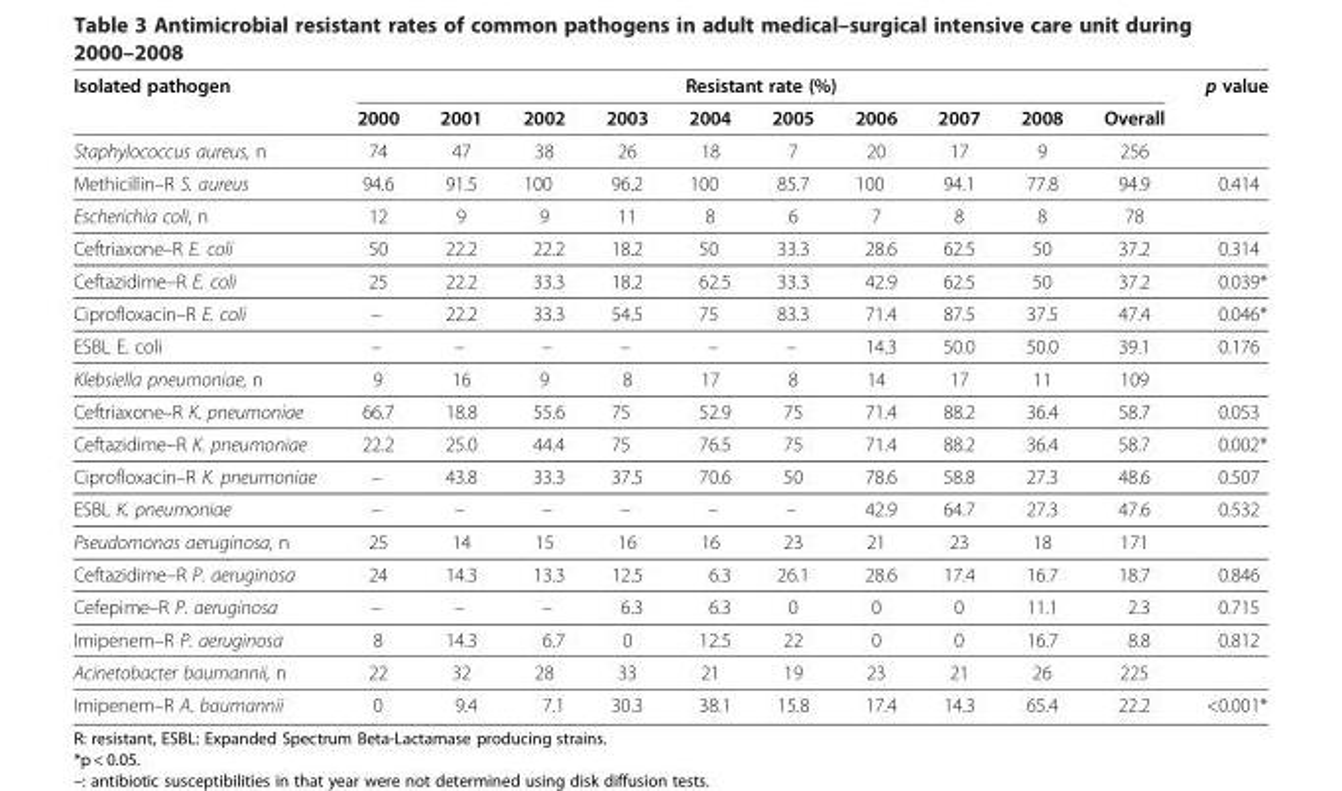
<table><thead><tr><td rowspan="2">Isolated pathogen</td><td colspan="10">Resistant rate (%)</td><td rowspan="2">p value</td></tr><tr><td>2000</td><td>2001</td><td>2002</td><td>2003</td><td>2004</td><td>2005</td><td>2006</td><td>2007</td><td>2008</td><td>Overall</td></tr></thead><tbody><tr><td>Staphylococcus aureus, n</td><td>74</td><td>47</td><td>38</td><td>26</td><td>18</td><td>7</td><td>20</td><td>17</td><td>9</td><td>256</td><td></td></tr><tr><td>Methicillin–R S. aureus</td><td>94.6</td><td>91.5</td><td>100</td><td>96.2</td><td>100</td><td>85.7</td><td>100</td><td>94.1</td><td>77.8</td><td>94.9</td><td>0.414</td></tr><tr><td>Escherichia coli, n</td><td>12</td><td>9</td><td>9</td><td>11</td><td>8</td><td>6</td><td>7</td><td>8</td><td>8</td><td>78</td><td></td></tr><tr><td>Ceftriaxone–R E. coli</td><td>50</td><td>22.2</td><td>22.2</td><td>18.2</td><td>50</td><td>33.3</td><td>28.6</td><td>62.5</td><td>50</td><td>37.2</td><td>0.314</td></tr><tr><td>Ceftazidime–R E. coli</td><td>25</td><td>22.2</td><td>33.3</td><td>18.2</td><td>62.5</td><td>33.3</td><td>42.9</td><td>62.5</td><td>50</td><td>37.2</td><td>0.039*</td></tr><tr><td>Ciprofloxacin–R E. coli</td><td>–</td><td>22.2</td><td>33.3</td><td>54.5</td><td>75</td><td>83.3</td><td>71.4</td><td>87.5</td><td>37.5</td><td>47.4</td><td>0.046*</td></tr><tr><td>ESBL E. coli</td><td>–</td><td>–</td><td>–</td><td>–</td><td>–</td><td>–</td><td>14.3</td><td>50.0</td><td>50.0</td><td>39.1</td><td>0.176</td></tr><tr><td>Klebsiella pneumoniae, n</td><td>9</td><td>16</td><td>9</td><td>8</td><td>17</td><td>8</td><td>14</td><td>17</td><td>11</td><td>109</td><td></td></tr><tr><td>Ceftriaxone–R K. pneumoniae</td><td>66.7</td><td>18.8</td><td>55.6</td><td>75</td><td>52.9</td><td>75</td><td>71.4</td><td>88.2</td><td>36.4</td><td>58.7</td><td>0.053</td></tr><tr><td>Ceftazidime–R K. pneumoniae</td><td>22.2</td><td>25.0</td><td>44.4</td><td>75</td><td>76.5</td><td>75</td><td>71.4</td><td>88.2</td><td>36.4</td><td>58.7</td><td>0.002*</td></tr><tr><td>Ciprofloxacin–R K. pneumoniae</td><td>–</td><td>43.8</td><td>33.3</td><td>37.5</td><td>70.6</td><td>50</td><td>78.6</td><td>58.8</td><td>27.3</td><td>48.6</td><td>0.507</td></tr><tr><td>ESBL K. pneumoniae</td><td>–</td><td>–</td><td>–</td><td>–</td><td>–</td><td>–</td><td>42.9</td><td>64.7</td><td>27.3</td><td>47.6</td><td>0.532</td></tr><tr><td>Pseudomonas aeruginosa, n</td><td>25</td><td>14</td><td>15</td><td>16</td><td>16</td><td>23</td><td>21</td><td>23</td><td>18</td><td>171</td><td></td></tr><tr><td>Ceftazidime–R P. aeruginosa</td><td>24</td><td>14.3</td><td>13.3</td><td>12.5</td><td>6.3</td><td>26.1</td><td>28.6</td><td>17.4</td><td>16.7</td><td>18.7</td><td>0.846</td></tr><tr><td>Cefepime–R P. aeruginosa</td><td>–</td><td>–</td><td>–</td><td>6.3</td><td>6.3</td><td>0</td><td>0</td><td>0</td><td>11.1</td><td>2.3</td><td>0.715</td></tr><tr><td>Imipenem–R P. aeruginosa</td><td>8</td><td>14.3</td><td>6.7</td><td>0</td><td>12.5</td><td>22</td><td>0</td><td>0</td><td>16.7</td><td>8.8</td><td>0.812</td></tr><tr><td>Acinetobacter baumannii, n</td><td>22</td><td>32</td><td>28</td><td>33</td><td>21</td><td>19</td><td>23</td><td>21</td><td>26</td><td>225</td><td></td></tr><tr><td>Imipenem–R A. baumannii</td><td>0</td><td>9.4</td><td>7.1</td><td>30.3</td><td>38.1</td><td>15.8</td><td>17.4</td><td>14.3</td><td>65.4</td><td>22.2</td><td>&lt;0.001*</td></tr></tbody></table>